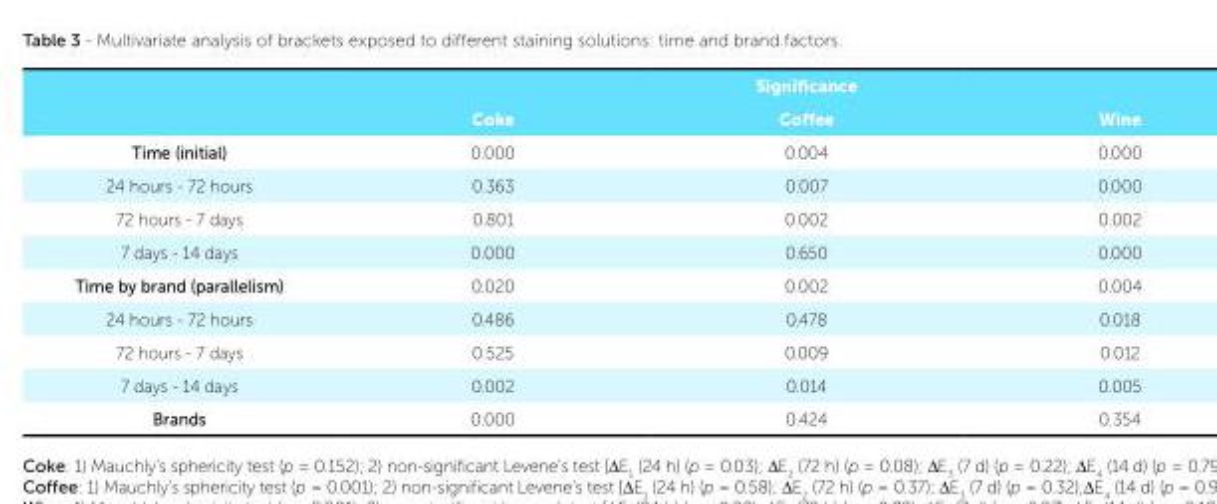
<table><thead><tr><td rowspan="2"></td><td rowspan="2">Coke</td><td rowspan="2">Significance Coffee</td><td rowspan="2">Wine</td></tr><tr></tr></thead><tbody><tr><td>Time (initial)</td><td>0.000</td><td>0.004</td><td>0.000</td></tr><tr><td>24 hours - 72 hours</td><td>0.363</td><td>0.007</td><td>0.000</td></tr><tr><td>72 hours - 7 days</td><td>0.801</td><td>0.002</td><td>0.002</td></tr><tr><td>7 days - 14 days</td><td>0.000</td><td>0.650</td><td>0.000</td></tr><tr><td>Time by brand (parallelism)</td><td>0.020</td><td>0.002</td><td>0.004</td></tr><tr><td>24 hours - 72 hours</td><td>0.486</td><td>0.478</td><td>0.018</td></tr><tr><td>72 hours - 7 days</td><td>0.525</td><td>0.009</td><td>0.012</td></tr><tr><td>7 days - 14 days</td><td>0.002</td><td>0.014</td><td>0.005</td></tr><tr><td>Brands</td><td>0.000</td><td>0.424</td><td>0.354</td></tr></tbody></table>